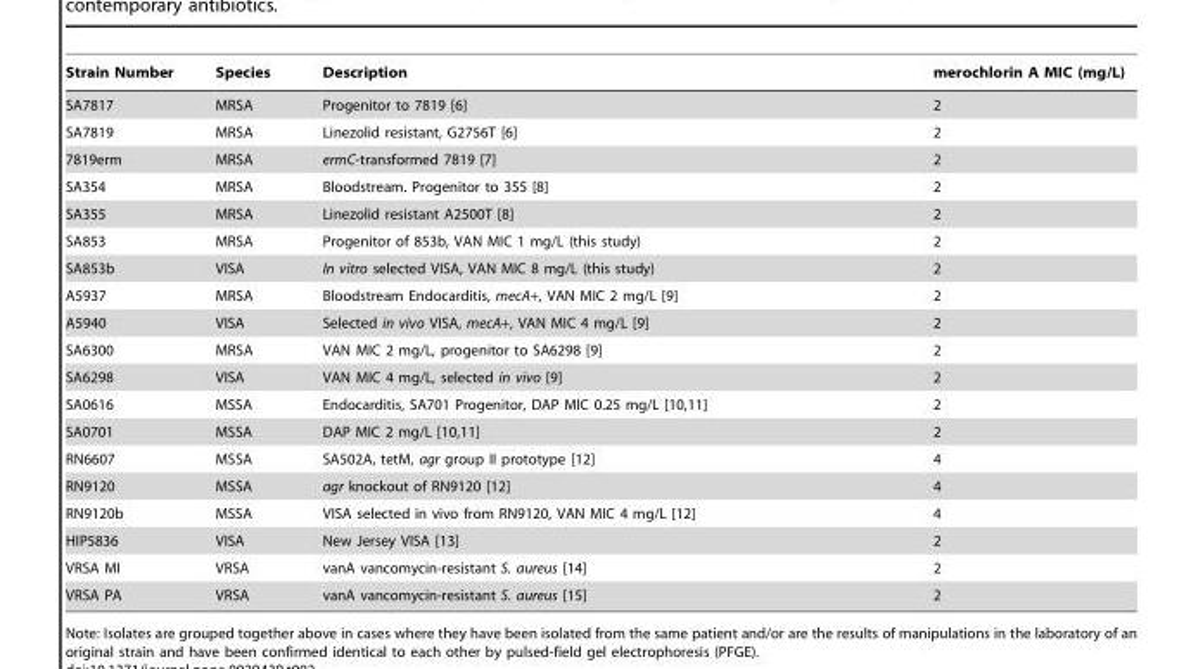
<table><thead><tr><td>Strain Number</td><td>Species</td><td>Description</td><td>merochlorin A MIC (mg/L)</td></tr></thead><tbody><tr><td>SA7817</td><td>MRSA</td><td>Progenitor to 7819 [6]</td><td>2</td></tr><tr><td>SA7819</td><td>MRSA</td><td>Linezolid resistant, G2756T [6]</td><td>2</td></tr><tr><td>7819erm</td><td>MRSA</td><td>ermC-transformed 7819 [7]</td><td>2</td></tr><tr><td>SA354</td><td>MRSA</td><td>Bloodstream. Progenitor to 355 [8]</td><td>2</td></tr><tr><td>SA355</td><td>MRSA</td><td>Linezolid resistant A2500T [8]</td><td>2</td></tr><tr><td>SA853</td><td>MRSA</td><td>Progenitor of 853b, VAN MIC 1 mg/L (this study)</td><td>2</td></tr><tr><td>SA853b</td><td>VISA</td><td>In vitro selected VISA, VAN MIC 8 mg/L (this study)</td><td>2</td></tr><tr><td>A5937</td><td>MRSA</td><td>Bloodstream Endocarditis, mecA+, VAN MIC 2 mg/L [9]</td><td>2</td></tr><tr><td>A5940</td><td>VISA</td><td>Selected in vivo VISA, mecA+, VAN MIC 4 mg/L [9]</td><td>2</td></tr><tr><td>SA6300</td><td>MRSA</td><td>VAN MIC 2 mg/L, progenitor to SA6298 [9]</td><td>2</td></tr><tr><td>SA6298</td><td>VISA</td><td>VAN MIC 4 mg/L, selected in vivo [9]</td><td>2</td></tr><tr><td>SA0616</td><td>MSSA</td><td>Endocarditis, SA701 Progenitor, DAP MIC 0.25 mg/L [10,11]</td><td>2</td></tr><tr><td>SA0701</td><td>MSSA</td><td>DAP MIC 2 mg/L [10,11]</td><td>2</td></tr><tr><td>RN6607</td><td>MSSA</td><td>SA502A, tetM, agr group II prototype [12]</td><td>4</td></tr><tr><td>RN9120</td><td>MSSA</td><td>agr knockout of RN9120 [12]</td><td>4</td></tr><tr><td>RN9120b</td><td>MSSA</td><td>VISA selected in vivo from RN9120, VAN MIC 4 mg/L [12]</td><td>4</td></tr><tr><td>HIP5836</td><td>VISA</td><td>New Jersey VISA [13]</td><td>2</td></tr><tr><td>VRSA MI</td><td>VRSA</td><td>vanA vancomycin-resistant S. aureus [14]</td><td>2</td></tr><tr><td>VRSA PA</td><td>VRSA</td><td>vanA vancomycin-resistant S. aureus [15]</td><td>2</td></tr></tbody></table>